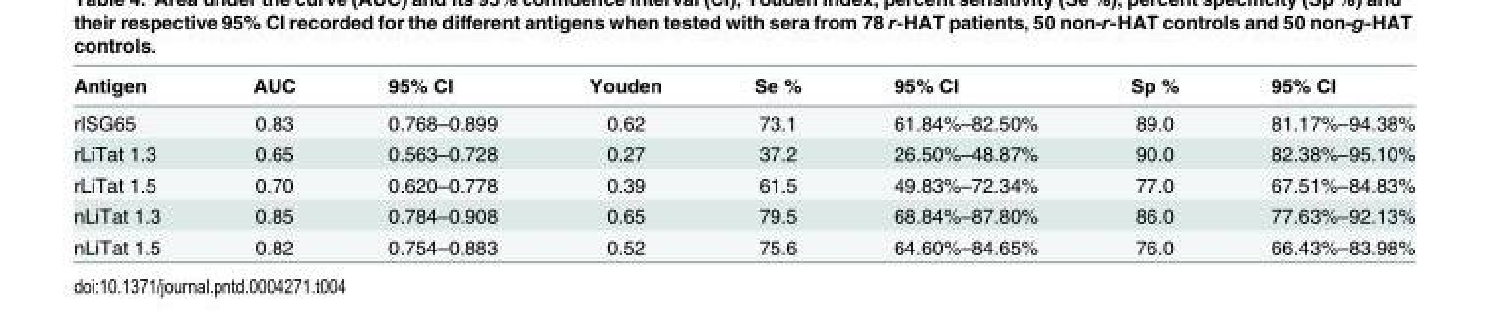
<table><thead><tr><td>Antigen</td><td>AUC</td><td>95% CI</td><td>Youden</td><td>Se %</td><td>95% CI</td><td>Sp %</td><td>95% CI</td></tr></thead><tbody><tr><td>rISG65</td><td>0.83</td><td>0.768–0.899</td><td>0.62</td><td>73.1</td><td>61.84%–82.50%</td><td>89.0</td><td>81.17%–94.38%</td></tr><tr><td>rLiTat 1.3</td><td>0.65</td><td>0.563–0.728</td><td>0.27</td><td>37.2</td><td>26.50%–48.87%</td><td>90.0</td><td>82.38%–95.10%</td></tr><tr><td>rLiTat 1.5</td><td>0.70</td><td>0.620–0.778</td><td>0.39</td><td>61.5</td><td>49.83%–72.34%</td><td>77.0</td><td>67.51%–84.83%</td></tr><tr><td>nLiTat 1.3</td><td>0.85</td><td>0.784–0.908</td><td>0.65</td><td>79.5</td><td>68.84%–87.80%</td><td>86.0</td><td>77.63%–92.13%</td></tr><tr><td>nLiTat 1.5</td><td>0.82</td><td>0.754–0.883</td><td>0.52</td><td>75.6</td><td>64.60%–84.65%</td><td>76.0</td><td>66.43%–83.98%</td></tr></tbody></table>